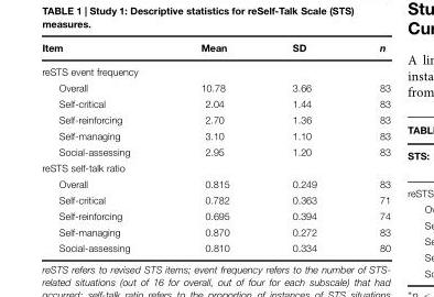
<table><thead><tr><td>Item</td><td>Mean</td><td>SD</td><td>n</td></tr></thead><tbody><tr><td colspan="4">reSTS event frequency</td></tr><tr><td>Overall</td><td>10.78</td><td>3.66</td><td>83</td></tr><tr><td>Self-critical</td><td>2.04</td><td>1.44</td><td>83</td></tr><tr><td>Self-reinforcing</td><td>2.70</td><td>1.36</td><td>83</td></tr><tr><td>Self-managing</td><td>3.10</td><td>1.10</td><td>83</td></tr><tr><td>Social-assessing</td><td>2.95</td><td>1.20</td><td>83</td></tr><tr><td colspan="4">reSTS self-talk ratio</td></tr><tr><td>Overall</td><td>0.815</td><td>0.249</td><td>83</td></tr><tr><td>Self-critical</td><td>0.782</td><td>0.363</td><td>71</td></tr><tr><td>Self-reinforcing</td><td>0.695</td><td>0.394</td><td>74</td></tr><tr><td>Self-managing</td><td>0.870</td><td>0.272</td><td>83</td></tr><tr><td>Social-assessing</td><td>0.810</td><td>0.334</td><td>80</td></tr></tbody></table>